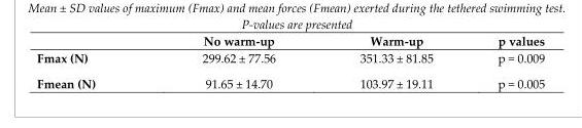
<table><thead><tr><td></td><td>No warm-up</td><td>Warm-up</td><td>p values</td></tr></thead><tbody><tr><td>Fmax (N)</td><td>299.62 ± 77.56</td><td>351.33 ± 81.85</td><td>p = 0.009</td></tr><tr><td>Fmean (N)</td><td>91.65 ± 14.70</td><td>103.97 ± 19.11</td><td>p = 0.005</td></tr></tbody></table>